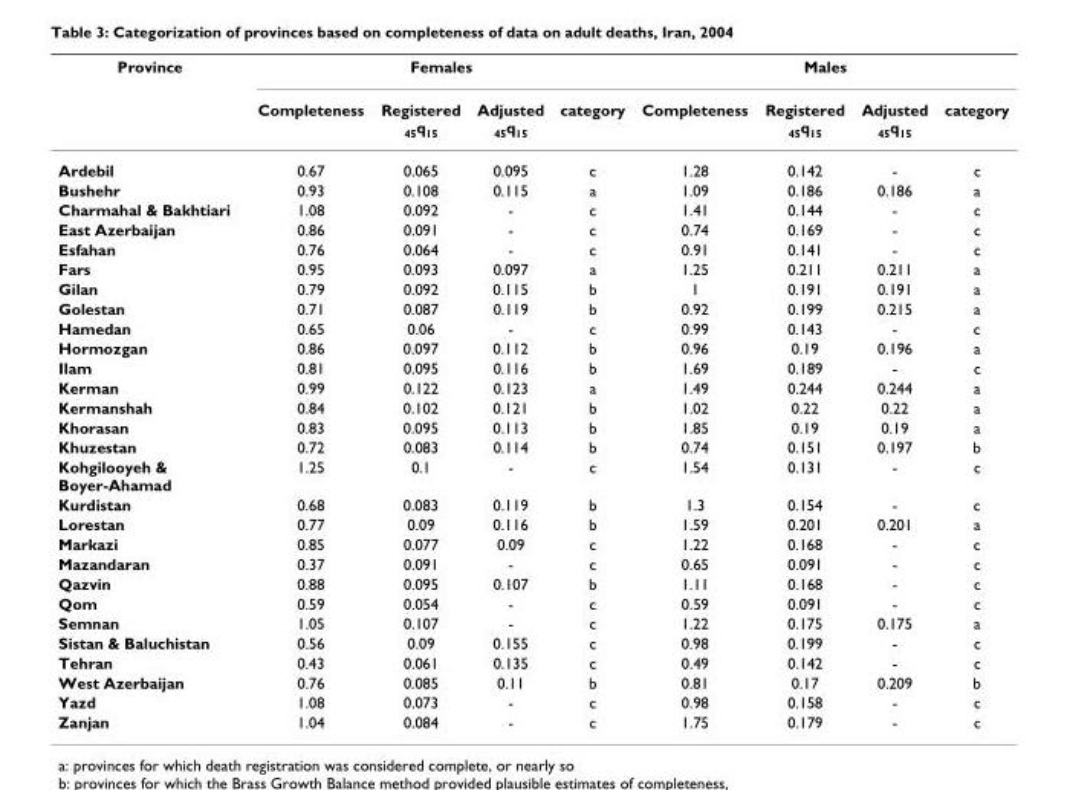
<table><thead><tr><td rowspan="2">Province</td><td colspan="4">Females</td><td colspan="4">Males</td></tr><tr><td>Completeness</td><td>Registered <sub>45</sub>q<sub>15</sub></td><td>Adjusted <sub>45</sub>q<sub>15</sub></td><td>category</td><td>Completeness</td><td>Registered <sub>45</sub>q<sub>15</sub></td><td>Adjusted <sub>45</sub>q<sub>15</sub></td><td>category</td></tr></thead><tbody><tr><td>Ardebil</td><td>0.67</td><td>0.065</td><td>0.095</td><td>c</td><td>1.28</td><td>0.142</td><td>-</td><td>c</td></tr><tr><td>Bushehr</td><td>0.93</td><td>0.108</td><td>0.115</td><td>a</td><td>1.09</td><td>0.186</td><td>0.186</td><td>a</td></tr><tr><td>Charmahal &amp; Bakhtiari</td><td>1.08</td><td>0.092</td><td>-</td><td>c</td><td>1.41</td><td>0.144</td><td>-</td><td>c</td></tr><tr><td>East Azerbaijan</td><td>0.86</td><td>0.091</td><td>-</td><td>c</td><td>0.74</td><td>0.169</td><td>-</td><td>c</td></tr><tr><td>Esfahan</td><td>0.76</td><td>0.064</td><td>-</td><td>c</td><td>0.91</td><td>0.141</td><td>-</td><td>c</td></tr><tr><td>Fars</td><td>0.95</td><td>0.093</td><td>0.097</td><td>a</td><td>1.25</td><td>0.211</td><td>0.211</td><td>a</td></tr><tr><td>Gilan</td><td>0.79</td><td>0.092</td><td>0.115</td><td>b</td><td>1</td><td>0.191</td><td>0.191</td><td>a</td></tr><tr><td>Golestan</td><td>0.71</td><td>0.087</td><td>0.119</td><td>b</td><td>0.92</td><td>0.199</td><td>0.215</td><td>a</td></tr><tr><td>Hamedan</td><td>0.65</td><td>0.06</td><td>-</td><td>c</td><td>0.99</td><td>0.143</td><td>-</td><td>c</td></tr><tr><td>Hormozgan</td><td>0.86</td><td>0.097</td><td>0.112</td><td>b</td><td>0.96</td><td>0.19</td><td>0.196</td><td>a</td></tr><tr><td>Ilam</td><td>0.81</td><td>0.095</td><td>0.116</td><td>b</td><td>1.69</td><td>0.189</td><td>-</td><td>c</td></tr><tr><td>Kerman</td><td>0.99</td><td>0.122</td><td>0.123</td><td>a</td><td>1.49</td><td>0.244</td><td>0.244</td><td>a</td></tr><tr><td>Kermanshah</td><td>0.84</td><td>0.102</td><td>0.121</td><td>b</td><td>1.02</td><td>0.22</td><td>0.22</td><td>a</td></tr><tr><td>Khorasan</td><td>0.83</td><td>0.095</td><td>0.113</td><td>b</td><td>1.85</td><td>0.19</td><td>0.19</td><td>a</td></tr><tr><td>Khuzestan</td><td>0.72</td><td>0.083</td><td>0.114</td><td>b</td><td>0.74</td><td>0.151</td><td>0.197</td><td>b</td></tr><tr><td>Kohgilooyeh &amp; Boyer-Ahamad</td><td>1.25</td><td>0.1</td><td>-</td><td>c</td><td>1.54</td><td>0.131</td><td>-</td><td>c</td></tr><tr><td>Kurdistan</td><td>0.68</td><td>0.083</td><td>0.119</td><td>b</td><td>1.3</td><td>0.154</td><td>-</td><td>c</td></tr><tr><td>Lorestan</td><td>0.77</td><td>0.09</td><td>0.116</td><td>b</td><td>1.59</td><td>0.201</td><td>0.201</td><td>a</td></tr><tr><td>Markazi</td><td>0.85</td><td>0.077</td><td>0.09</td><td>c</td><td>1.22</td><td>0.168</td><td>-</td><td>c</td></tr><tr><td>Mazandaran</td><td>0.37</td><td>0.091</td><td>-</td><td>c</td><td>0.65</td><td>0.091</td><td>-</td><td>c</td></tr><tr><td>Qazvin</td><td>0.88</td><td>0.095</td><td>0.107</td><td>b</td><td>1.11</td><td>0.168</td><td>-</td><td>c</td></tr><tr><td>Qom</td><td>0.59</td><td>0.054</td><td>-</td><td>c</td><td>0.59</td><td>0.091</td><td>-</td><td>c</td></tr><tr><td>Semnan</td><td>1.05</td><td>0.107</td><td>-</td><td>c</td><td>1.22</td><td>0.175</td><td>0.175</td><td>a</td></tr><tr><td>Sistan &amp; Baluchistan</td><td>0.56</td><td>0.09</td><td>0.155</td><td>c</td><td>0.98</td><td>0.199</td><td>-</td><td>c</td></tr><tr><td>Tehran</td><td>0.43</td><td>0.061</td><td>0.135</td><td>c</td><td>0.49</td><td>0.142</td><td>-</td><td>c</td></tr><tr><td>West Azerbaijan</td><td>0.76</td><td>0.085</td><td>0.11</td><td>b</td><td>0.81</td><td>0.17</td><td>0.209</td><td>b</td></tr><tr><td>Yazd</td><td>1.08</td><td>0.073</td><td>-</td><td>c</td><td>0.98</td><td>0.158</td><td>-</td><td>c</td></tr><tr><td>Zanjan</td><td>1.04</td><td>0.084</td><td>-</td><td>c</td><td>1.75</td><td>0.179</td><td>-</td><td>c</td></tr></tbody></table>